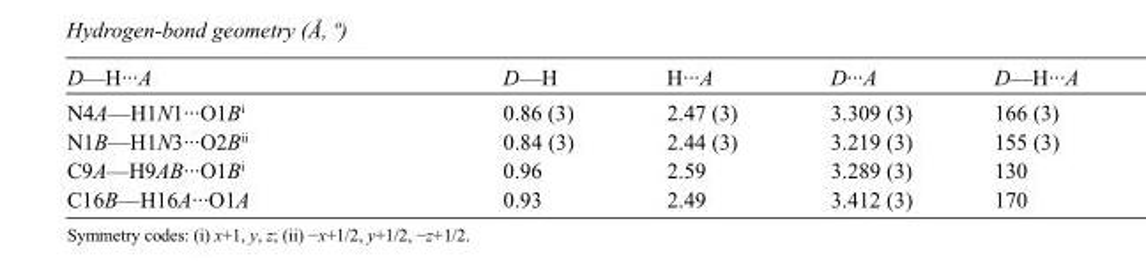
<table><tbody><tr><td>D—H···A</td><td>D—H</td><td>H···A</td><td>D···A</td><td>D—H···A</td></tr><tr><td>N4A—H1N1···O1B<sup>i</sup></td><td>0.86 (3)</td><td>2.47 (3)</td><td>3.309 (3)</td><td>166 (3)</td></tr><tr><td>N1B—H1N3···O2B<sup>ii</sup></td><td>0.84 (3)</td><td>2.44 (3)</td><td>3.219 (3)</td><td>155 (3)</td></tr><tr><td>C9A—H9AB···O1B<sup>i</sup></td><td>0.96</td><td>2.59</td><td>3.289 (3)</td><td>130</td></tr><tr><td>C16B—H16A···O1A</td><td>0.93</td><td>2.49</td><td>3.412 (3)</td><td>170</td></tr></tbody></table>